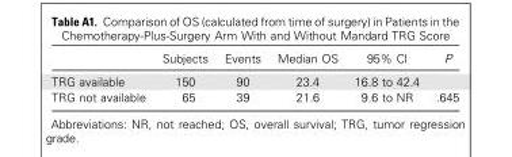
<table><thead><tr><td></td><td>Subjects</td><td>Events</td><td>Median OS</td><td>95% CI</td><td>P</td></tr></thead><tbody><tr><td>TRG available</td><td>150</td><td>90</td><td>23.4</td><td>16.8 to 42.4</td><td></td></tr><tr><td>TRG not available</td><td>65</td><td>39</td><td>21.6</td><td>9.6 to NR</td><td>.645</td></tr></tbody></table>